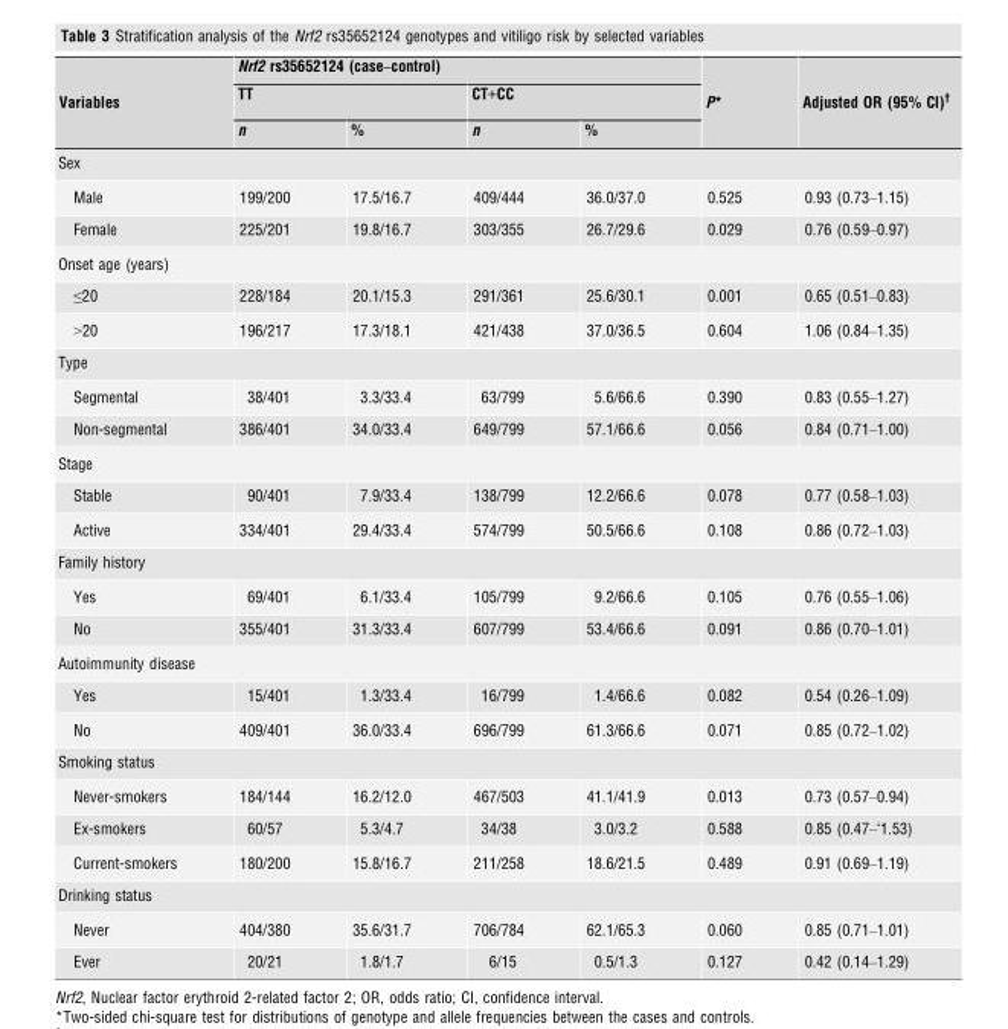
<table><thead><tr><td rowspan="3">Variables</td><td colspan="4">Nrf2 rs35652124 (case–control)</td><td rowspan="3">P*</td><td rowspan="3">Adjusted OR (95% CI)†</td></tr><tr><td colspan="2">TT</td><td colspan="2">CT+CC</td></tr><tr><td>n</td><td>%</td><td>n</td><td>%</td></tr></thead><tbody><tr><td colspan="7">Sex</td></tr><tr><td>Male</td><td>199/200</td><td>17.5/16.7</td><td>409/444</td><td>36.0/37.0</td><td>0.525</td><td>0.93 (0.73–1.15)</td></tr><tr><td>Female</td><td>225/201</td><td>19.8/16.7</td><td>303/355</td><td>26.7/29.6</td><td>0.029</td><td>0.76 (0.59–0.97)</td></tr><tr><td colspan="7">Onset age (years)</td></tr><tr><td>≤20</td><td>228/184</td><td>20.1/15.3</td><td>291/361</td><td>25.6/30.1</td><td>0.001</td><td>0.65 (0.51–0.83)</td></tr><tr><td>&gt;20</td><td>196/217</td><td>17.3/18.1</td><td>421/438</td><td>37.0/36.5</td><td>0.604</td><td>1.06 (0.84–1.35)</td></tr><tr><td colspan="7">Type</td></tr><tr><td>Segmental</td><td>38/401</td><td>3.3/33.4</td><td>63/799</td><td>5.6/66.6</td><td>0.390</td><td>0.83 (0.55–1.27)</td></tr><tr><td>Non-segmental</td><td>386/401</td><td>34.0/33.4</td><td>649/799</td><td>57.1/66.6</td><td>0.056</td><td>0.84 (0.71–1.00)</td></tr><tr><td colspan="7">Stage</td></tr><tr><td>Stable</td><td>90/401</td><td>7.9/33.4</td><td>138/799</td><td>12.2/66.6</td><td>0.078</td><td>0.77 (0.58–1.03)</td></tr><tr><td>Active</td><td>334/401</td><td>29.4/33.4</td><td>574/799</td><td>50.5/66.6</td><td>0.108</td><td>0.86 (0.72–1.03)</td></tr><tr><td colspan="7">Family history</td></tr><tr><td>Yes</td><td>69/401</td><td>6.1/33.4</td><td>105/799</td><td>9.2/66.6</td><td>0.105</td><td>0.76 (0.55–1.06)</td></tr><tr><td>No</td><td>355/401</td><td>31.3/33.4</td><td>607/799</td><td>53.4/66.6</td><td>0.091</td><td>0.86 (0.70–1.01)</td></tr><tr><td colspan="7">Autoimmunity disease</td></tr><tr><td>Yes</td><td>15/401</td><td>1.3/33.4</td><td>16/799</td><td>1.4/66.6</td><td>0.082</td><td>0.54 (0.26–1.09)</td></tr><tr><td>No</td><td>409/401</td><td>36.0/33.4</td><td>696/799</td><td>61.3/66.6</td><td>0.071</td><td>0.85 (0.72–1.02)</td></tr><tr><td colspan="7">Smoking status</td></tr><tr><td>Never-smokers</td><td>184/144</td><td>16.2/12.0</td><td>467/503</td><td>41.1/41.9</td><td>0.013</td><td>0.73 (0.57–0.94)</td></tr><tr><td>Ex-smokers</td><td>60/57</td><td>5.3/4.7</td><td>34/38</td><td>3.0/3.2</td><td>0.588</td><td>0.85 (0.47–‘1.53)</td></tr><tr><td>Current-smokers</td><td>180/200</td><td>15.8/16.7</td><td>211/258</td><td>18.6/21.5</td><td>0.489</td><td>0.91 (0.69–1.19)</td></tr><tr><td colspan="7">Drinking status</td></tr><tr><td>Never</td><td>404/380</td><td>35.6/31.7</td><td>706/784</td><td>62.1/65.3</td><td>0.060</td><td>0.85 (0.71–1.01)</td></tr><tr><td>Ever</td><td>20/21</td><td>1.8/1.7</td><td>6/15</td><td>0.5/1.3</td><td>0.127</td><td>0.42 (0.14–1.29)</td></tr></tbody></table>